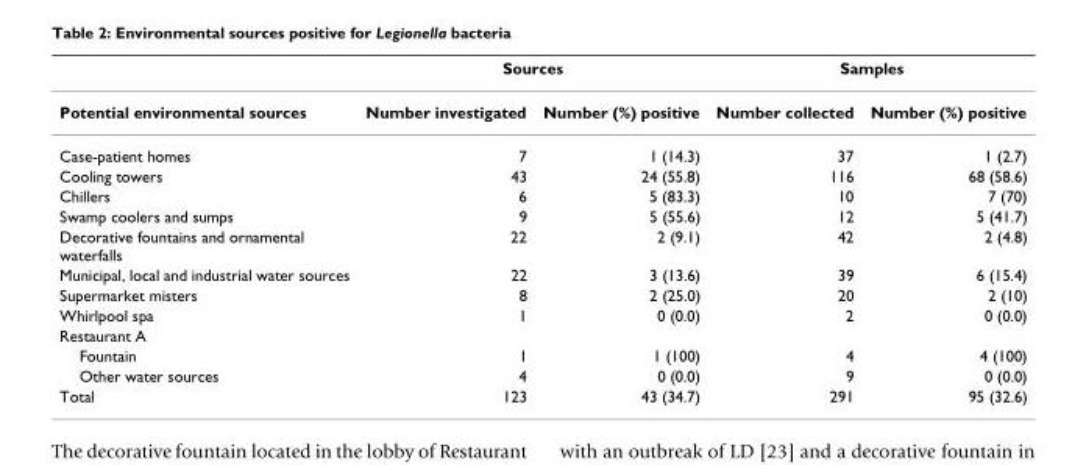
<table><thead><tr><td rowspan="2">Potential environmental sources</td><td colspan="2">Sources</td><td colspan="2">Samples</td></tr><tr><td>Number investigated</td><td>Number (%) positive</td><td>Number collected</td><td>Number (%) positive</td></tr></thead><tbody><tr><td>Case-patient homes</td><td>7</td><td>1 (14.3)</td><td>37</td><td>1 (2.7)</td></tr><tr><td>Cooling towers</td><td>43</td><td>24 (55.8)</td><td>116</td><td>68 (58.6)</td></tr><tr><td>Chillers</td><td>6</td><td>5 (83.3)</td><td>10</td><td>7 (70)</td></tr><tr><td>Swamp coolers and sumps</td><td>9</td><td>5 (55.6)</td><td>12</td><td>5 (41.7)</td></tr><tr><td>Decorative fountains and ornamental waterfalls</td><td>22</td><td>2 (9.1)</td><td>42</td><td>2 (4.8)</td></tr><tr><td>Municipal, local and industrial water sources</td><td>22</td><td>3 (13.6)</td><td>39</td><td>6 (15.4)</td></tr><tr><td>Supermarket misters</td><td>8</td><td>2 (25.0)</td><td>20</td><td>2 (10)</td></tr><tr><td>Whirlpool spa</td><td>1</td><td>0 (0.0)</td><td>2</td><td>0 (0.0)</td></tr><tr><td colspan="5">Restaurant A</td></tr><tr><td>Fountain</td><td>1</td><td>1 (100)</td><td>4</td><td>4 (100)</td></tr><tr><td>Other water sources</td><td>4</td><td>0 (0.0)</td><td>9</td><td>0 (0.0)</td></tr><tr><td>Total</td><td>123</td><td>43 (34.7)</td><td>291</td><td>95 (32.6)</td></tr></tbody></table>